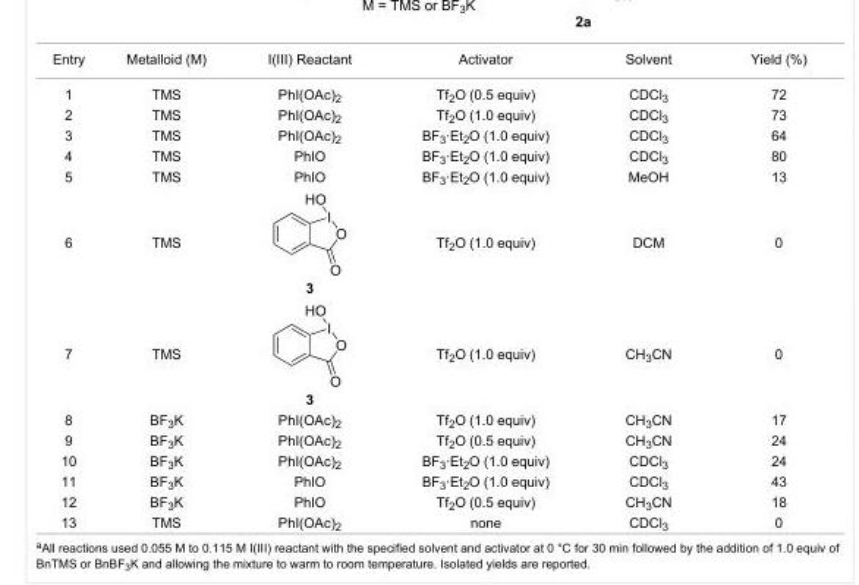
<table><tbody><tr><td>Entry</td><td>Metalloid (M)</td><td>I(III) Reactant</td><td>Activator</td><td>Solvent</td><td>Yield (%)</td></tr><tr><td>1</td><td>TMS</td><td>PhI(OAc)<sub>2</sub></td><td>Tf<sub>2</sub>O (0.5 equiv)</td><td>CDCl<sub>3</sub></td><td>72</td></tr><tr><td>2</td><td>TMS</td><td>PhI(OAc)<sub>2</sub></td><td>Tf<sub>2</sub>O (1.0 equiv)</td><td>CDCl<sub>3</sub></td><td>73</td></tr><tr><td>3</td><td>TMS</td><td>PhI(OAc)<sub>2</sub></td><td>BF<sub>3</sub>·Et<sub>2</sub>O (1.0 equiv)</td><td>CDCl<sub>3</sub></td><td>64</td></tr><tr><td>4</td><td>TMS</td><td>PhIO</td><td>BF<sub>3</sub>·Et<sub>2</sub>O (1.0 equiv)</td><td>CDCl<sub>3</sub></td><td>80</td></tr><tr><td>5</td><td>TMS</td><td>PhIO</td><td>BF<sub>3</sub>·Et<sub>2</sub>O (1.0 equiv)</td><td>MeOH</td><td>13</td></tr><tr><td>6</td><td>TMS</td><td>3</td><td>Tf<sub>2</sub>O (1.0 equiv)</td><td>DCM</td><td>0</td></tr><tr><td>7</td><td>TMS</td><td>3</td><td>Tf<sub>2</sub>O (1.0 equiv)</td><td>CH<sub>3</sub>CN</td><td>0</td></tr><tr><td>8</td><td>BF<sub>3</sub>K</td><td>PhI(OAc)<sub>2</sub></td><td>Tf<sub>2</sub>O (1.0 equiv)</td><td>CH<sub>3</sub>CN</td><td>17</td></tr><tr><td>9</td><td>BF<sub>3</sub>K</td><td>PhI(OAc)<sub>2</sub></td><td>Tf<sub>2</sub>O (0.5 equiv)</td><td>CH<sub>3</sub>CN</td><td>24</td></tr><tr><td>10</td><td>BF<sub>3</sub>K</td><td>PhI(OAc)<sub>2</sub></td><td>BF<sub>3</sub>·Et<sub>2</sub>O (1.0 equiv)</td><td>CDCl<sub>3</sub></td><td>24</td></tr><tr><td>11</td><td>BF<sub>3</sub>K</td><td>PhIO</td><td>BF<sub>3</sub>·Et<sub>2</sub>O (1.0 equiv)</td><td>CDCl<sub>3</sub></td><td>43</td></tr><tr><td>12</td><td>BF<sub>3</sub>K</td><td>PhIO</td><td>Tf<sub>2</sub>O (0.5 equiv)</td><td>CH<sub>3</sub>CN</td><td>18</td></tr><tr><td>13</td><td>TMS</td><td>PhI(OAc)<sub>2</sub></td><td>none</td><td>CDCl<sub>3</sub></td><td>0</td></tr></tbody></table>